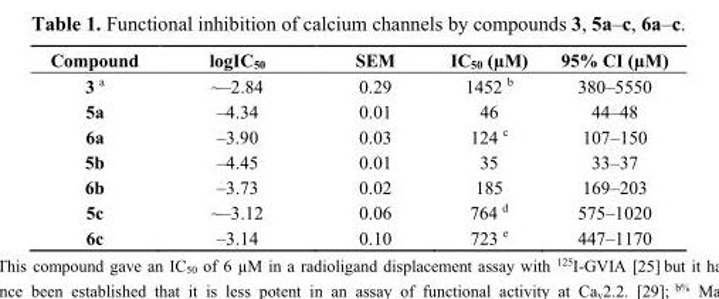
<table><thead><tr><td>Compound</td><td>logIC<sub>50</sub></td><td>SEM</td><td>IC<sub>50</sub> (µM)</td><td>95% CI (µM)</td></tr></thead><tbody><tr><td>3 <sup>a</sup></td><td>~–2.84</td><td>0.29</td><td>1452 <sup>b</sup></td><td>380–5550</td></tr><tr><td>5a</td><td>–4.34</td><td>0.01</td><td>46</td><td>44–48</td></tr><tr><td>6a</td><td>–3.90</td><td>0.03</td><td>124 <sup>c</sup></td><td>107–150</td></tr><tr><td>5b</td><td>–4.45</td><td>0.01</td><td>35</td><td>33–37</td></tr><tr><td>6b</td><td>–3.73</td><td>0.02</td><td>185</td><td>169–203</td></tr><tr><td>5c</td><td>~–3.12</td><td>0.06</td><td>764 <sup>d</sup></td><td>575–1020</td></tr><tr><td>6c</td><td>–3.14</td><td>0.10</td><td>723 <sup>e</sup></td><td>447–1170</td></tr></tbody></table>